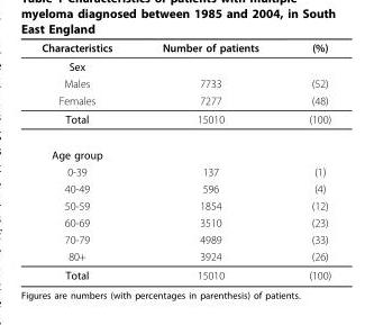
<table><thead><tr><td>Characteristics</td><td>Number of patients</td><td>(%)</td></tr></thead><tbody><tr><td colspan="3">Sex</td></tr><tr><td>Males</td><td>7733</td><td>(52)</td></tr><tr><td>Females</td><td>7277</td><td>(48)</td></tr><tr><td>Total</td><td>15010</td><td>(100)</td></tr><tr><td colspan="3">Age group</td></tr><tr><td>0-39</td><td>137</td><td>(1)</td></tr><tr><td>40-49</td><td>596</td><td>(4)</td></tr><tr><td>50-59</td><td>1854</td><td>(12)</td></tr><tr><td>60-69</td><td>3510</td><td>(23)</td></tr><tr><td>70-79</td><td>4989</td><td>(33)</td></tr><tr><td>80+</td><td>3924</td><td>(26)</td></tr><tr><td>Total</td><td>15010</td><td>(100)</td></tr></tbody></table>